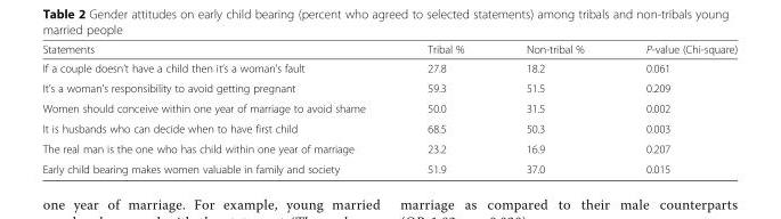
<table><thead><tr><td>Statements</td><td>Tribal %</td><td>Non-tribal %</td><td>P-value (Chi-square)</td></tr></thead><tbody><tr><td>If a couple doesn’t have a child then it’s a woman’s fault</td><td>27.8</td><td>18.2</td><td>0.061</td></tr><tr><td>It’s a woman’s responsibility to avoid getting pregnant</td><td>59.3</td><td>51.5</td><td>0.209</td></tr><tr><td>Women should conceive within one year of marriage to avoid shame</td><td>50.0</td><td>31.5</td><td>0.002</td></tr><tr><td>It is husbands who can decide when to have first child</td><td>68.5</td><td>50.3</td><td>0.003</td></tr><tr><td>The real man is the one who has child within one year of marriage</td><td>23.2</td><td>16.9</td><td>0.207</td></tr><tr><td>Early child bearing makes women valuable in family and society</td><td>51.9</td><td>37.0</td><td>0.015</td></tr></tbody></table>